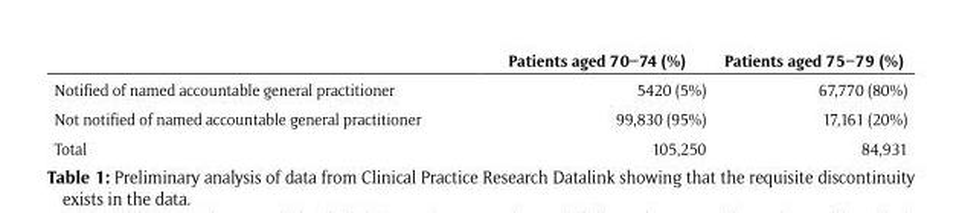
<table><thead><tr><td></td><td>Patients aged 70–74 (%)</td><td>Patients aged 75–79 (%)</td></tr></thead><tbody><tr><td>Notified of named accountable general practitioner</td><td>5420 (5%)</td><td>67,770 (80%)</td></tr><tr><td>Not notified of named accountable general practitioner</td><td>99,830 (95%)</td><td>17,161 (20%)</td></tr><tr><td>Total</td><td>105,250</td><td>84,931</td></tr></tbody></table>